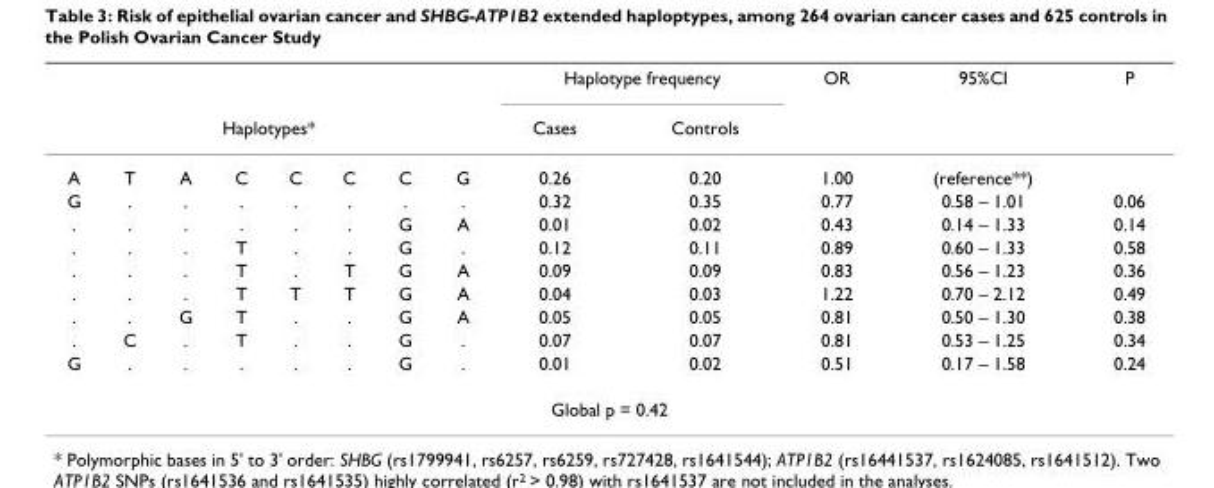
<table><thead><tr><td></td><td></td><td></td><td></td><td></td><td></td><td></td><td></td><td colspan="2">Haplotype frequency</td><td rowspan="2">OR</td><td rowspan="2">95%CI</td><td rowspan="2">P</td></tr><tr><td colspan="8">Haplotypes*</td><td>Cases</td><td>Controls</td></tr></thead><tbody><tr><td>A</td><td>T</td><td>A</td><td>C</td><td>C</td><td>C</td><td>C</td><td>G</td><td>0.26</td><td>0.20</td><td>1.00</td><td>(reference**)</td><td></td></tr><tr><td>G</td><td>.</td><td>.</td><td>.</td><td>.</td><td>.</td><td>.</td><td>.</td><td>0.32</td><td>0.35</td><td>0.77</td><td>0.58 – 1.01</td><td>0.06</td></tr><tr><td>.</td><td>.</td><td>.</td><td>.</td><td>.</td><td>.</td><td>G</td><td>A</td><td>0.01</td><td>0.02</td><td>0.43</td><td>0.14 – 1.33</td><td>0.14</td></tr><tr><td>.</td><td>.</td><td>.</td><td>T</td><td>.</td><td>.</td><td>G</td><td>.</td><td>0.12</td><td>0.11</td><td>0.89</td><td>0.60 – 1.33</td><td>0.58</td></tr><tr><td>.</td><td>.</td><td>.</td><td>T</td><td>.</td><td>T</td><td>G</td><td>A</td><td>0.09</td><td>0.09</td><td>0.83</td><td>0.56 – 1.23</td><td>0.36</td></tr><tr><td>.</td><td>.</td><td>.</td><td>T</td><td>T</td><td>T</td><td>G</td><td>A</td><td>0.04</td><td>0.03</td><td>1.22</td><td>0.70 – 2.12</td><td>0.49</td></tr><tr><td>.</td><td>.</td><td>G</td><td>T</td><td>.</td><td>.</td><td>G</td><td>A</td><td>0.05</td><td>0.05</td><td>0.81</td><td>0.50 – 1.30</td><td>0.38</td></tr><tr><td>.</td><td>C</td><td>.</td><td>T</td><td>.</td><td>.</td><td>G</td><td>.</td><td>0.07</td><td>0.07</td><td>0.81</td><td>0.53 – 1.25</td><td>0.34</td></tr><tr><td>G</td><td>.</td><td>.</td><td>.</td><td>.</td><td>.</td><td>G</td><td>.</td><td>0.01</td><td>0.02</td><td>0.51</td><td>0.17 – 1.58</td><td>0.24</td></tr><tr><td colspan="13">Global p = 0.42</td></tr></tbody></table>